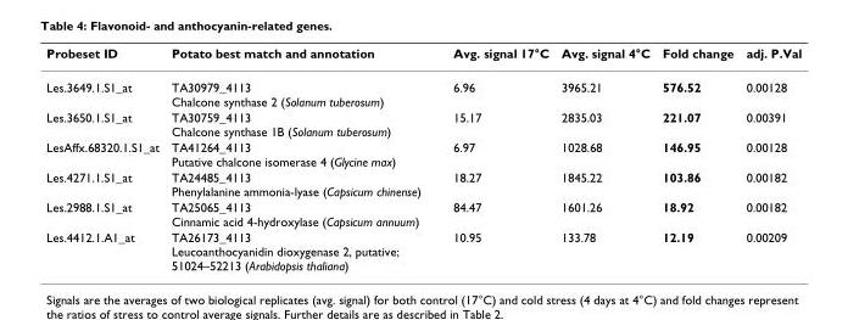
<table><thead><tr><td>Probeset ID</td><td>Potato best match and annotation</td><td>Avg. signal 17°C</td><td>Avg. signal 4°C</td><td>Fold change</td><td>adj. P.Val</td></tr></thead><tbody><tr><td>Les.3649.1.S1_at</td><td>TA30979_4113 Chalcone synthase 2 (Solanum tuberosum)</td><td>6.96</td><td>3965.21</td><td>576.52</td><td>0.00128</td></tr><tr><td>Les.3650.1.S1_at</td><td>TA30759_4113 Chalcone synthase 1B (Solanum tuberosum)</td><td>15.17</td><td>2835.03</td><td>221.07</td><td>0.00391</td></tr><tr><td>LesAffx.68320.1.S1_at</td><td>TA41264_4113 Putative chalcone isomerase 4 (Glycine max)</td><td>6.97</td><td>1028.68</td><td>146.95</td><td>0.00128</td></tr><tr><td>Les.4271.1.S1_at</td><td>TA24485_4113 Phenylalanine ammonia-lyase (Capsicum chinense)</td><td>18.27</td><td>1845.22</td><td>103.86</td><td>0.00182</td></tr><tr><td>Les.2988.1.S1_at</td><td>TA25065_4113 Cinnamic acid 4-hydroxylase (Capsicum annuum)</td><td>84.47</td><td>1601.26</td><td>18.92</td><td>0.00182</td></tr><tr><td>Les.4412.1.A1_at</td><td>TA26173_4113 Leucoanthocyanidin dioxygenase 2, putative; 51024–52213 (Arabidopsis thaliana)</td><td>10.95</td><td>133.78</td><td>12.19</td><td>0.00209</td></tr></tbody></table>